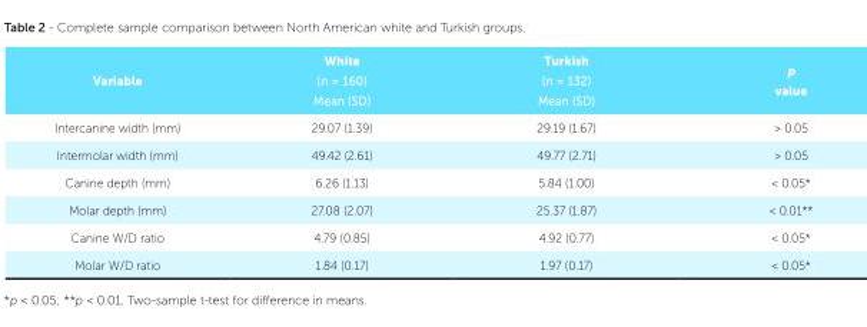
<table><thead><tr><td>Variable</td><td>White (n = 160) Mean (SD)</td><td>Turkish (n = 132) Mean (SD)</td><td>p value</td></tr></thead><tbody><tr><td>Intercanine width (mm)</td><td>29.07 (1.39)</td><td>29.19 (1.67)</td><td>&gt; 0.05</td></tr><tr><td>Intermolar width (mm)</td><td>49.42 (2.61)</td><td>49.77 (2.71)</td><td>&gt; 0.05</td></tr><tr><td>Canine depth (mm)</td><td>6.26 (1.13)</td><td>5.84 (1.00)</td><td>&lt; 0.05*</td></tr><tr><td>Molar depth (mm)</td><td>27.08 (2.07)</td><td>25.37 (1.87)</td><td>&lt; 0.01**</td></tr><tr><td>Canine W/D ratio</td><td>4.79 (0.85)</td><td>4.92 (0.77)</td><td>&lt; 0.05*</td></tr><tr><td>Molar W/D ratio</td><td>1.84 (0.17)</td><td>1.97 (0.17)</td><td>&lt; 0.05*</td></tr></tbody></table>